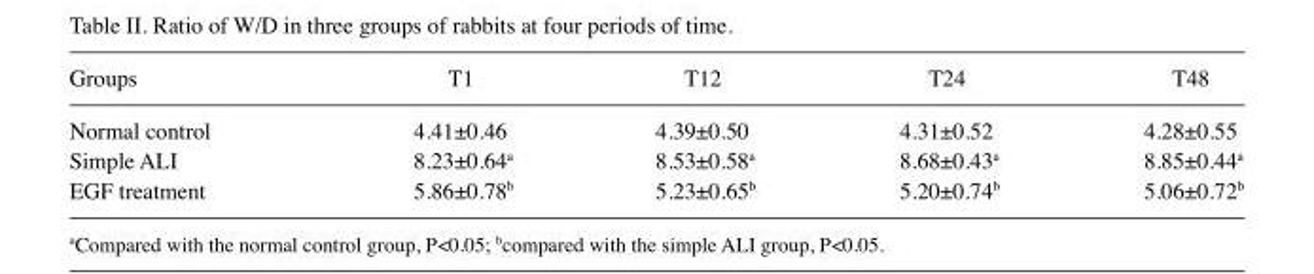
<table><thead><tr><td>Groups</td><td>T1</td><td>T12</td><td>T24</td><td>T48</td></tr></thead><tbody><tr><td>Normal control</td><td>4.41±0.46</td><td>4.39±0.50</td><td>4.31±0.52</td><td>4.28±0.55</td></tr><tr><td>Simple ALI</td><td>8.23±0.64<sup>a</sup></td><td>8.53±0.58<sup>a</sup></td><td>8.68±0.43<sup>a</sup></td><td>8.85±0.44<sup>a</sup></td></tr><tr><td>EGF treatment</td><td>5.86±0.78<sup>b</sup></td><td>5.23±0.65<sup>b</sup></td><td>5.20±0.74<sup>b</sup></td><td>5.06±0.72<sup>b</sup></td></tr></tbody></table>